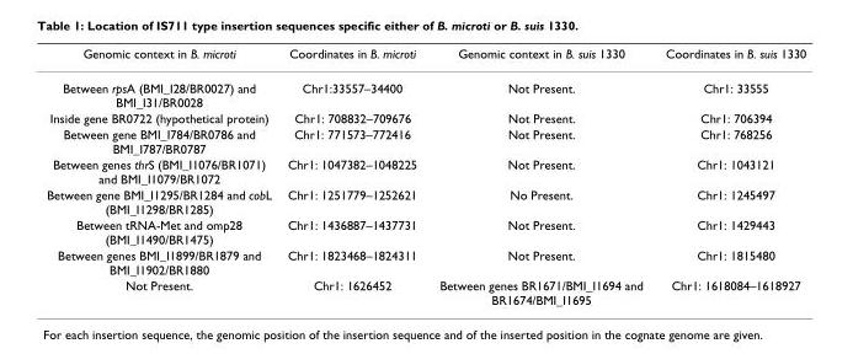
<table><thead><tr><td>Genomic context in B. microti</td><td>Coordinates in B. microti</td><td>Genomic context in B. suis 1330</td><td>Coordinates in B. suis 1330</td></tr></thead><tbody><tr><td>Between rpsA (BMI_I28/BR0027) and BMI_I31/BR0028</td><td>Chr1:33557–34400</td><td>Not Present.</td><td>Chr1: 33555</td></tr><tr><td>Inside gene BR0722 (hypothetical protein)</td><td>Chr1: 708832–709676</td><td>Not Present.</td><td>Chr1: 706394</td></tr><tr><td>Between gene BMI_I784/BR0786 and BMI_I787/BR0787</td><td>Chr1: 771573–772416</td><td>Not Present.</td><td>Chr1: 768256</td></tr><tr><td>Between genes thrS (BMI_I1076/BR1071) and BMI_I1079/BR1072</td><td>Chr1: 1047382–1048225</td><td>Not Present.</td><td>Chr1: 1043121</td></tr><tr><td>Between gene BMI_I1295/BR1284 and cobL (BMI_I1298/BR1285)</td><td>Chr1: 1251779–1252621</td><td>No Present.</td><td>Chr1: 1245497</td></tr><tr><td>Between tRNA-Met and omp28 (BMI_I1490/BR1475)</td><td>Chr1: 1436887–1437731</td><td>Not Present.</td><td>Chr1: 1429443</td></tr><tr><td>Between genes BMI_I1899/BR1879 and BMI_I1902/BR1880</td><td>Chr1: 1823468–1824311</td><td>Not Present.</td><td>Chr1: 1815480</td></tr><tr><td>Not Present.</td><td>Chr1: 1626452</td><td>Between genes BR1671/BMI_I1694 and BR1674/BMI_I1695</td><td>Chr1: 1618084–1618927</td></tr></tbody></table>